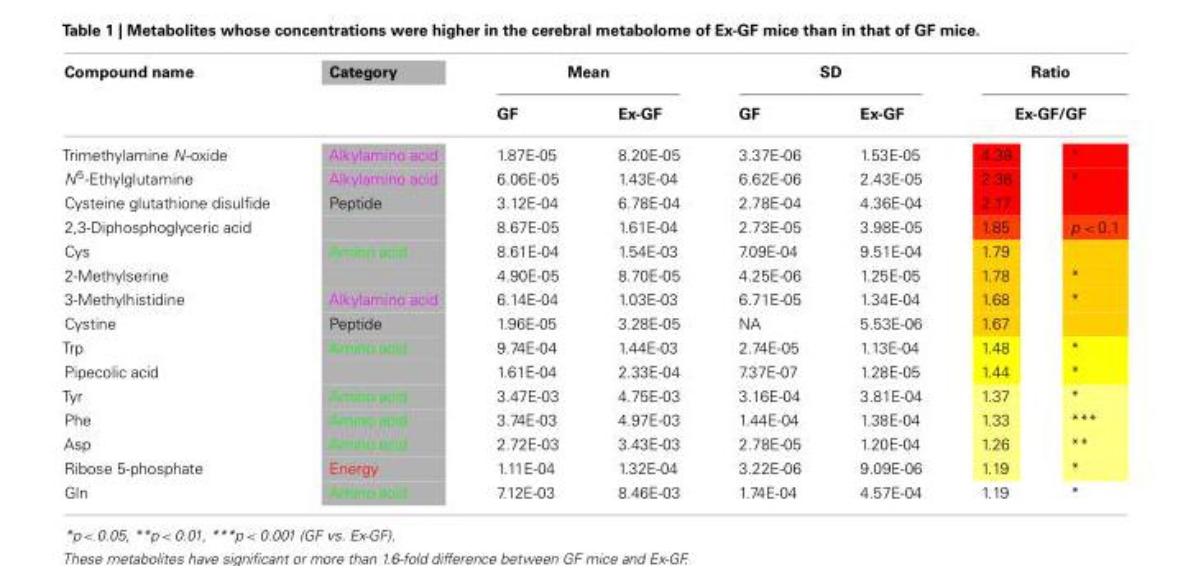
<table><thead><tr><td rowspan="3">Compound name Trimethylamine N-oxide</td><td rowspan="3">Category Alkylamino acid</td><td colspan="2">Mean</td><td colspan="2">SD</td><td rowspan="2" colspan="2">Ratio Ex-GF/GF</td></tr><tr><td rowspan="2">GF 1.87E-05</td><td rowspan="2">Ex-GF 8.20E-05</td><td rowspan="2">GF 3.37E-06</td><td rowspan="2">Ex-GF 1.53E-05</td></tr><tr><td>4.39</td><td>*</td></tr></thead><tbody><tr><td>N<sup>5</sup>-Ethylglutamine</td><td>Alkylamino acid</td><td>6.06E-05</td><td>1.43E-04</td><td>6.62E-06</td><td>2.43E-05</td><td>2.36</td><td>*</td></tr><tr><td>Cysteine glutathione disulfide</td><td>Peptide</td><td>3.12E-04</td><td>6.78E-04</td><td>2.78E-04</td><td>4.36E-04</td><td>2.17</td><td></td></tr><tr><td>2,3-Diphosphoglyceric acid</td><td></td><td>8.67E-05</td><td>1.61E-04</td><td>2.73E-05</td><td>3.98E-05</td><td>1.85</td><td>p &lt; 0.1</td></tr><tr><td>Cys</td><td>Amino acid</td><td>8.61E-04</td><td>1.54E-03</td><td>7.09E-04</td><td>9.51E-04</td><td>1.79</td><td></td></tr><tr><td>2-Methylserine</td><td></td><td>4.90E-05</td><td>8.70E-05</td><td>4.25E-06</td><td>1.25E-05</td><td>1.78</td><td>*</td></tr><tr><td>3-Methylhistidine</td><td>Alkylamino acid</td><td>6.14E-04</td><td>1.03E-03</td><td>6.71E-05</td><td>1.34E-04</td><td>1.68</td><td>*</td></tr><tr><td>Cystine</td><td>Peptide</td><td>1.96E-05</td><td>3.28E-05</td><td>NA</td><td>5.53E-06</td><td>1.67</td><td></td></tr><tr><td>Trp</td><td>Amino acid</td><td>9.74E-04</td><td>1.44E-03</td><td>2.74E-05</td><td>1.13E-04</td><td>1.48</td><td>*</td></tr><tr><td>Pipecolic acid</td><td></td><td>1.61E-04</td><td>2.33E-04</td><td>7.37E-07</td><td>1.28E-05</td><td>1.44</td><td>*</td></tr><tr><td>Tyr</td><td>Amino acid</td><td>3.47E-03</td><td>4.75E-03</td><td>3.16E-04</td><td>3.81E-04</td><td>1.37</td><td>*</td></tr><tr><td>Phe</td><td>Amino acid</td><td>3.74E-03</td><td>4.97E-03</td><td>1.44E-04</td><td>1.38E-04</td><td>1.33</td><td>***</td></tr><tr><td>Asp</td><td>Amino acid</td><td>2.72E-03</td><td>3.43E-03</td><td>2.78E-05</td><td>1.20E-04</td><td>1.26</td><td>**</td></tr><tr><td>Ribose 5-phosphate</td><td>Energy</td><td>1.11E-04</td><td>1.32E-04</td><td>3.22E-06</td><td>9.09E-06</td><td>1.19</td><td>*</td></tr><tr><td>Gln</td><td>Amino acid</td><td>7.12E-03</td><td>8.46E-03</td><td>1.74E-04</td><td>4.57E-04</td><td>1.19</td><td>*</td></tr></tbody></table>